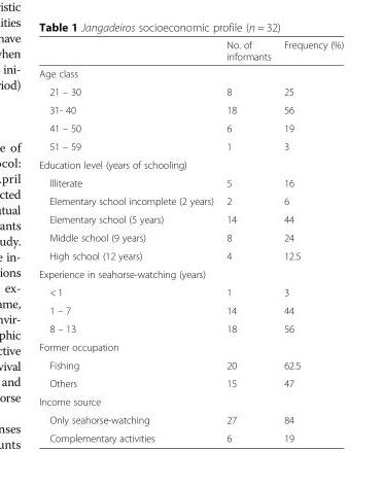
<table><thead><tr><td></td><td>No. of informants</td><td>Frequency (%)</td></tr></thead><tbody><tr><td colspan="3">Age class</td></tr><tr><td>21 – 30</td><td>8</td><td>25</td></tr><tr><td>31- 40</td><td>18</td><td>56</td></tr><tr><td>41 – 50</td><td>6</td><td>19</td></tr><tr><td>51 – 59</td><td>1</td><td>3</td></tr><tr><td colspan="3">Education level (years of schooling)</td></tr><tr><td>Illiterate</td><td>5</td><td>16</td></tr><tr><td>Elementary school incomplete (2 years)</td><td>2</td><td>6</td></tr><tr><td>Elementary school (5 years)</td><td>14</td><td>44</td></tr><tr><td>Middle school (9 years)</td><td>8</td><td>24</td></tr><tr><td>High school (12 years)</td><td>4</td><td>12.5</td></tr><tr><td colspan="3">Experience in seahorse-watching (years)</td></tr><tr><td>&lt; 1</td><td>1</td><td>3</td></tr><tr><td>1 – 7</td><td>14</td><td>44</td></tr><tr><td>8 – 13</td><td>18</td><td>56</td></tr><tr><td colspan="3">Former occupation</td></tr><tr><td>Fishing</td><td>20</td><td>62.5</td></tr><tr><td>Others</td><td>15</td><td>47</td></tr><tr><td colspan="3">Income source</td></tr><tr><td>Only seahorse-watching</td><td>27</td><td>84</td></tr><tr><td>Complementary activities</td><td>6</td><td>19</td></tr></tbody></table>